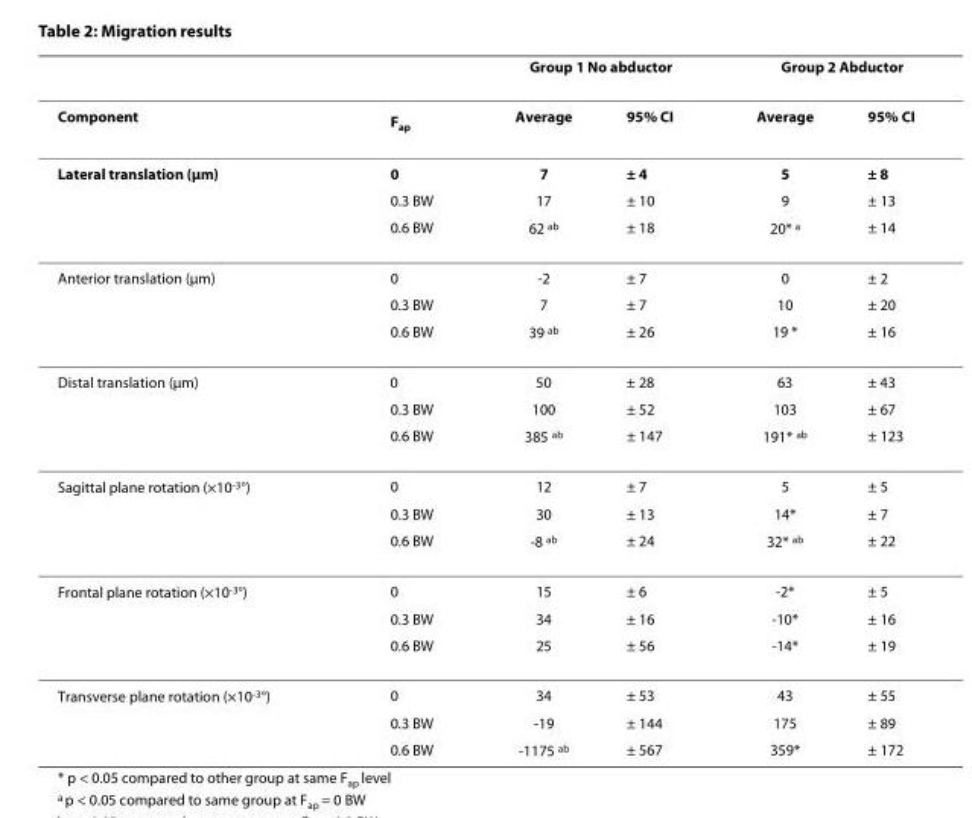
<table><thead><tr><td rowspan="2">Component</td><td rowspan="2">F<sub>ap</sub></td><td colspan="2">Group 1 No abductor</td><td colspan="2">Group 2 Abductor</td></tr><tr><td>Average</td><td>95% CI</td><td>Average</td><td>95% CI</td></tr></thead><tbody><tr><td rowspan="3">Lateral translation (μm)</td><td>0</td><td>7</td><td>± 4</td><td>5</td><td>± 8</td></tr><tr><td>0.3 BW</td><td>17</td><td>± 10</td><td>9</td><td>± 13</td></tr><tr><td>0.6 BW</td><td>62 <sup>ab</sup></td><td>± 18</td><td>20* <sup>a</sup></td><td>± 14</td></tr><tr><td rowspan="3">Anterior translation (μm)</td><td>0</td><td>-2</td><td>± 7</td><td>0</td><td>± 2</td></tr><tr><td>0.3 BW</td><td>7</td><td>± 7</td><td>10</td><td>± 20</td></tr><tr><td>0.6 BW</td><td>39 <sup>ab</sup></td><td>± 26</td><td>19 *</td><td>± 16</td></tr><tr><td rowspan="3">Distal translation (μm)</td><td>0</td><td>50</td><td>± 28</td><td>63</td><td>± 43</td></tr><tr><td>0.3 BW</td><td>100</td><td>± 52</td><td>103</td><td>± 67</td></tr><tr><td>0.6 BW</td><td>385 <sup>ab</sup></td><td>± 147</td><td>191* <sup>ab</sup></td><td>± 123</td></tr><tr><td rowspan="3">Sagittal plane rotation (×10<sup>-3</sup>°)</td><td>0</td><td>12</td><td>± 7</td><td>5</td><td>± 5</td></tr><tr><td>0.3 BW</td><td>30</td><td>± 13</td><td>14*</td><td>± 7</td></tr><tr><td>0.6 BW</td><td>-8 <sup>ab</sup></td><td>± 24</td><td>32* <sup>ab</sup></td><td>± 22</td></tr><tr><td rowspan="3">Frontal plane rotation (×10<sup>-3</sup>°)</td><td>0</td><td>15</td><td>± 6</td><td>-2*</td><td>± 5</td></tr><tr><td>0.3 BW</td><td>34</td><td>± 16</td><td>-10*</td><td>± 16</td></tr><tr><td>0.6 BW</td><td>25</td><td>± 56</td><td>-14*</td><td>± 19</td></tr><tr><td rowspan="3">Transverse plane rotation (×10<sup>-3</sup>°)</td><td>0</td><td>34</td><td>± 53</td><td>43</td><td>± 55</td></tr><tr><td>0.3 BW</td><td>-19</td><td>± 144</td><td>175</td><td>± 89</td></tr><tr><td>0.6 BW</td><td>-1175 <sup>ab</sup></td><td>± 567</td><td>359*</td><td>± 172</td></tr></tbody></table>